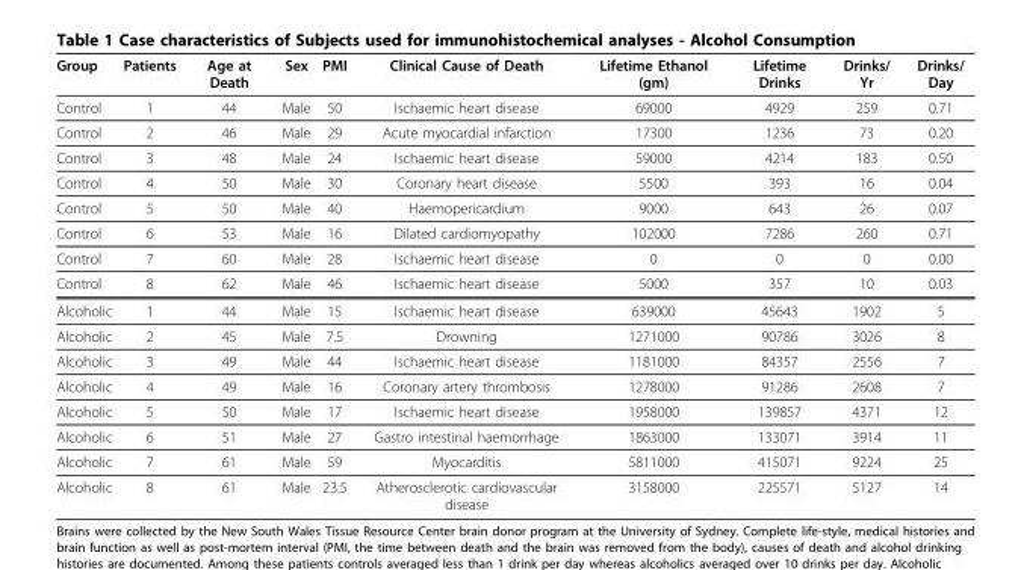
<table><thead><tr><td>Group</td><td>Patients</td><td>Age at Death</td><td>Sex</td><td>PMI</td><td>Clinical Cause of Death</td><td>Lifetime Ethanol (gm)</td><td>Lifetime Drinks</td><td>Drinks/ Yr</td><td>Drinks/ Day</td></tr></thead><tbody><tr><td>Control</td><td>1</td><td>44</td><td>Male</td><td>50</td><td>Ischaemic heart disease</td><td>69000</td><td>4929</td><td>259</td><td>0.71</td></tr><tr><td>Control</td><td>2</td><td>46</td><td>Male</td><td>29</td><td>Acute myocardial infarction</td><td>17300</td><td>1236</td><td>73</td><td>0.20</td></tr><tr><td>Control</td><td>3</td><td>48</td><td>Male</td><td>24</td><td>Ischaemic heart disease</td><td>59000</td><td>4214</td><td>183</td><td>0.50</td></tr><tr><td>Control</td><td>4</td><td>50</td><td>Male</td><td>30</td><td>Coronary heart disease</td><td>5500</td><td>393</td><td>16</td><td>0.04</td></tr><tr><td>Control</td><td>5</td><td>50</td><td>Male</td><td>40</td><td>Haemopericardium</td><td>9000</td><td>643</td><td>26</td><td>0.07</td></tr><tr><td>Control</td><td>6</td><td>53</td><td>Male</td><td>16</td><td>Dilated cardiomyopathy</td><td>102000</td><td>7286</td><td>260</td><td>0.71</td></tr><tr><td>Control</td><td>7</td><td>60</td><td>Male</td><td>28</td><td>Ischaemic heart disease</td><td>0</td><td>0</td><td>0</td><td>0.00</td></tr><tr><td>Control</td><td>8</td><td>62</td><td>Male</td><td>46</td><td>Ischaemic heart disease</td><td>5000</td><td>357</td><td>10</td><td>0.03</td></tr><tr><td>Alcoholic</td><td>1</td><td>44</td><td>Male</td><td>15</td><td>Ischaemic heart disease</td><td>639000</td><td>45643</td><td>1902</td><td>5</td></tr><tr><td>Alcoholic</td><td>2</td><td>45</td><td>Male</td><td>7.5</td><td>Drowning</td><td>1271000</td><td>90786</td><td>3026</td><td>8</td></tr><tr><td>Alcoholic</td><td>3</td><td>49</td><td>Male</td><td>44</td><td>Ischaemic heart disease</td><td>1181000</td><td>84357</td><td>2556</td><td>7</td></tr><tr><td>Alcoholic</td><td>4</td><td>49</td><td>Male</td><td>16</td><td>Coronary artery thrombosis</td><td>1278000</td><td>91286</td><td>2608</td><td>7</td></tr><tr><td>Alcoholic</td><td>5</td><td>50</td><td>Male</td><td>17</td><td>Ischaemic heart disease</td><td>1958000</td><td>139857</td><td>4371</td><td>12</td></tr><tr><td>Alcoholic</td><td>6</td><td>51</td><td>Male</td><td>27</td><td>Gastro intestinal haemorrhage</td><td>1863000</td><td>133071</td><td>3914</td><td>11</td></tr><tr><td>Alcoholic</td><td>7</td><td>61</td><td>Male</td><td>59</td><td>Myocarditis</td><td>5811000</td><td>415071</td><td>9224</td><td>25</td></tr><tr><td>Alcoholic</td><td>8</td><td>61</td><td>Male</td><td>23.5</td><td>Atherosclerotic cardiovascular disease</td><td>3158000</td><td>225571</td><td>5127</td><td>14</td></tr></tbody></table>